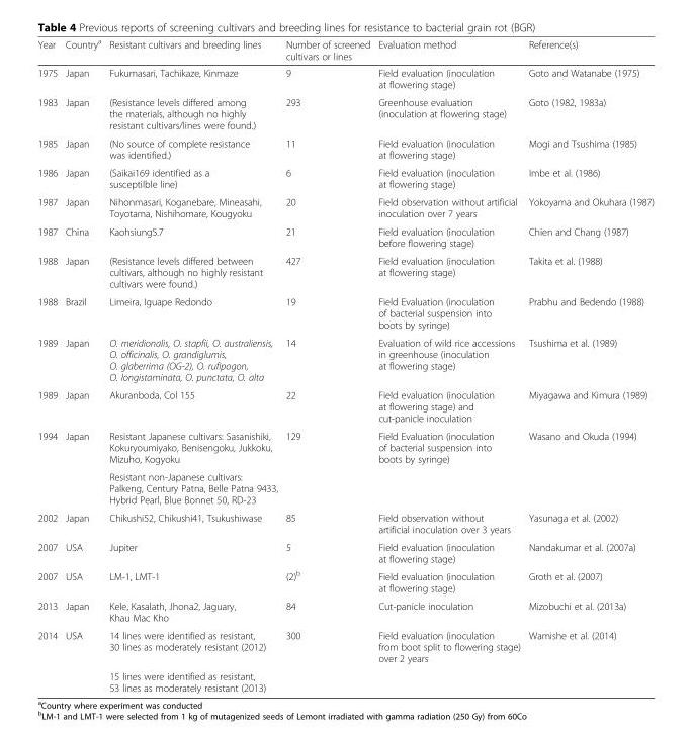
<table><thead><tr><td>Year</td><td>Country<sup>a</sup></td><td>Resistant cultivars and breeding lines</td><td>Number of screened cultivars or lines</td><td>Evaluation method</td><td>Reference(s)</td></tr></thead><tbody><tr><td>1975</td><td>Japan</td><td>Fukumasari, Tachikaze, Kinmaze</td><td>9</td><td>Field evaluation (inoculation at flowering stage)</td><td>Goto and Watanabe (1975)</td></tr><tr><td>1983</td><td>Japan</td><td>(Resistance levels differed among the materials, although no highly resistant cultivars/lines were found.)</td><td>293</td><td>Greenhouse evaluation (inoculation at flowering stage)</td><td>Goto (1982, 1983a)</td></tr><tr><td>1985</td><td>Japan</td><td>(No source of complete resistance was identified.)</td><td>11</td><td>Field evaluation (inoculation at flowering stage)</td><td>Mogi and Tsushima (1985)</td></tr><tr><td>1986</td><td>Japan</td><td>(Saikai169 identified as a susceptilble line)</td><td>6</td><td>Field evaluation (inoculation at flowering stage)</td><td>Imbe et al. (1986)</td></tr><tr><td>1987</td><td>Japan</td><td>Nihonmasari, Koganebare, Mineasahi, Toyotama, Nishihomare, Kougyoku</td><td>20</td><td>Field observation without artificial inoculation over 7 years</td><td>Yokoyama and Okuhara (1987)</td></tr><tr><td>1987</td><td>China</td><td>KaohsiungS.7</td><td>21</td><td>Field evaluation (inoculation before flowering stage)</td><td>Chien and Chang (1987)</td></tr><tr><td>1988</td><td>Japan</td><td>(Resistance levels differed between cultivars, although no highly resistant cultivars were found.)</td><td>427</td><td>Field evaluation (inoculation at flowering stage)</td><td>Takita et al. (1988)</td></tr><tr><td>1988</td><td>Brazil</td><td>Limeira, Iguape Redondo</td><td>19</td><td>Field Evaluation (inoculation of bacterial suspension into boots by syringe)</td><td>Prabhu and Bedendo (1988)</td></tr><tr><td>1989</td><td>Japan</td><td>O. meridionalis, O. stapfii, O. australiensis, O. officinalis, O. grandiglumis, O. glaberrima (OG-2), O. rufipogon, O. longistaminata, O. punctata, O. alta</td><td>14</td><td>Evaluation of wild rice accessions in greenhouse (inoculation at flowering stage)</td><td>Tsushima et al. (1989)</td></tr><tr><td>1989</td><td>Japan</td><td>Akuranboda, Col 155</td><td>22</td><td>Field evaluation (inoculation at flowering stage) and cut-panicle inoculation</td><td>Miyagawa and Kimura (1989)</td></tr><tr><td rowspan="2">1994</td><td>Japan</td><td>Resistant Japanese cultivars: Sasanishiki, Kokuryoumiyako, Benisengoku, Jukkoku, Mizuho, Kogyoku</td><td>129</td><td>Field Evaluation (inoculation of bacterial suspension into boots by syringe)</td><td>Wasano and Okuda (1994)</td></tr><tr><td></td><td>Resistant non-Japanese cultivars: Palkeng, Century Patna, Belle Patna 9433, Hybrid Pearl, Blue Bonnet 50, RD-23</td><td></td><td></td><td></td></tr><tr><td>2002</td><td>Japan</td><td>Chikushi52, Chikushi41, Tsukushiwase</td><td>85</td><td>Field observation without artificial inoculation over 3 years</td><td>Yasunaga et al. (2002)</td></tr><tr><td>2007</td><td>USA</td><td>Jupiter</td><td>5</td><td>Field evaluation (inoculation at flowering stage)</td><td>Nandakumar et al. (2007a)</td></tr><tr><td>2007</td><td>USA</td><td>LM-1, LMT-1</td><td>(2)<sup>b</sup></td><td>Field evaluation (inoculation at flowering stage)</td><td>Groth et al. (2007)</td></tr><tr><td>2013</td><td>Japan</td><td>Kele, Kasalath, Jhona2, Jaguary, Khau Mac Kho</td><td>84</td><td>Cut-panicle inoculation</td><td>Mizobuchi et al. (2013a)</td></tr><tr><td rowspan="2">2014</td><td>USA</td><td>14 lines were identified as resistant, 30 lines as moderately resistant (2012)</td><td>300</td><td>Field evaluation (inoculation from boot split to flowering stage) over 2 years</td><td>Wamishe et al. (2014)</td></tr><tr><td></td><td>15 lines were identified as resistant, 53 lines as moderately resistant (2013)</td><td></td><td></td><td></td></tr></tbody></table>